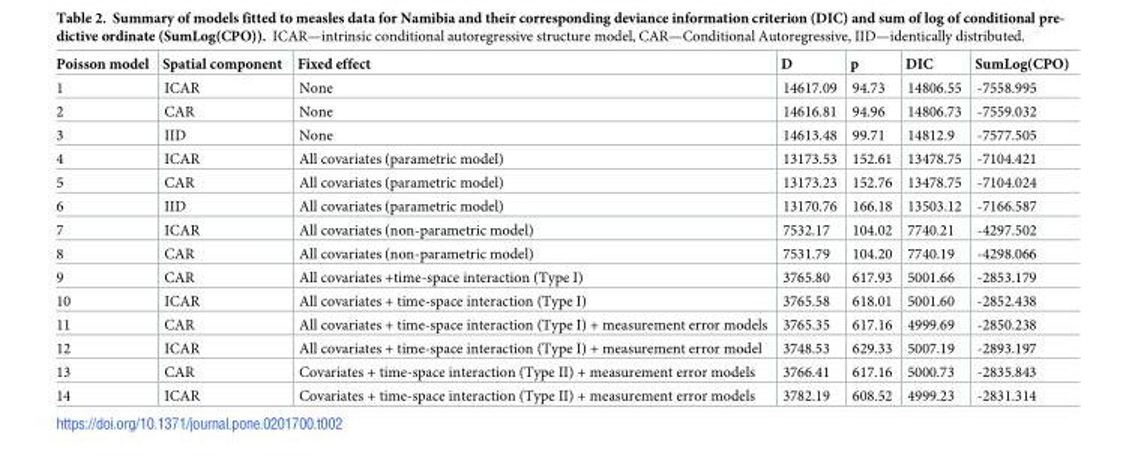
<table><thead><tr><td>Poisson model</td><td>Spatial component</td><td>Fixed effect</td><td>D</td><td>p</td><td>DIC</td><td>SumLog(CPO)</td></tr></thead><tbody><tr><td>1</td><td>ICAR</td><td>None</td><td>14617.09</td><td>94.73</td><td>14806.55</td><td>-7558.995</td></tr><tr><td>2</td><td>CAR</td><td>None</td><td>14616.81</td><td>94.96</td><td>14806.73</td><td>-7559.032</td></tr><tr><td>3</td><td>IID</td><td>None</td><td>14613.48</td><td>99.71</td><td>14812.9</td><td>-7577.505</td></tr><tr><td>4</td><td>ICAR</td><td>All covariates (parametric model)</td><td>13173.53</td><td>152.61</td><td>13478.75</td><td>-7104.421</td></tr><tr><td>5</td><td>CAR</td><td>All covariates (parametric model)</td><td>13173.23</td><td>152.76</td><td>13478.75</td><td>-7104.024</td></tr><tr><td>6</td><td>IID</td><td>All covariates (parametric model)</td><td>13170.76</td><td>166.18</td><td>13503.12</td><td>-7166.587</td></tr><tr><td>7</td><td>ICAR</td><td>All covariates (non-parametric model)</td><td>7532.17</td><td>104.02</td><td>7740.21</td><td>-4297.502</td></tr><tr><td>8</td><td>CAR</td><td>All covariates (non-parametric model)</td><td>7531.79</td><td>104.20</td><td>7740.19</td><td>-4298.066</td></tr><tr><td>9</td><td>CAR</td><td>All covariates +time-space interaction (Type I)</td><td>3765.80</td><td>617.93</td><td>5001.66</td><td>-2853.179</td></tr><tr><td>10</td><td>ICAR</td><td>All covariates + time-space interaction (Type I)</td><td>3765.58</td><td>618.01</td><td>5001.60</td><td>-2852.438</td></tr><tr><td>11</td><td>CAR</td><td>All covariates + time-space interaction (Type I) + measurement error models</td><td>3765.35</td><td>617.16</td><td>4999.69</td><td>-2850.238</td></tr><tr><td>12</td><td>ICAR</td><td>All covariates + time-space interaction (Type I) + measurement error model</td><td>3748.53</td><td>629.33</td><td>5007.19</td><td>-2893.197</td></tr><tr><td>13</td><td>CAR</td><td>Covariates + time-space interaction (Type II) + measurement error models</td><td>3766.41</td><td>617.16</td><td>5000.73</td><td>-2835.843</td></tr><tr><td>14</td><td>ICAR</td><td>Covariates + time-space interaction (Type II) + measurement error models</td><td>3782.19</td><td>608.52</td><td>4999.23</td><td>-2831.314</td></tr></tbody></table>